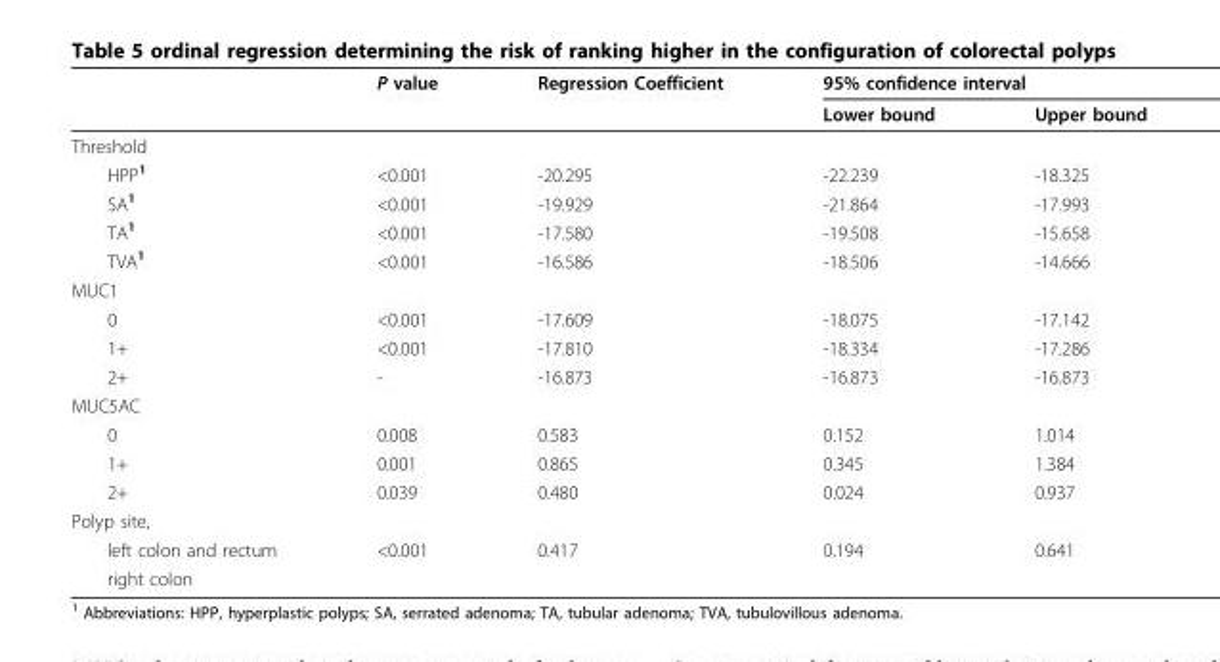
<table><thead><tr><td rowspan="2"></td><td rowspan="2">P value</td><td rowspan="2">Regression Coefficient</td><td colspan="2">95% confidence interval</td></tr><tr><td>Lower bound</td><td>Upper bound</td></tr></thead><tbody><tr><td colspan="5">Threshold</td></tr><tr><td>HPP<sup>1</sup></td><td>&lt;0.001</td><td>-20.295</td><td>-22.239</td><td>-18.325</td></tr><tr><td>SA<sup>1</sup></td><td>&lt;0.001</td><td>-19.929</td><td>-21.864</td><td>-17.993</td></tr><tr><td>TA<sup>1</sup></td><td>&lt;0.001</td><td>-17.580</td><td>-19.508</td><td>-15.658</td></tr><tr><td>TVA<sup>1</sup></td><td>&lt;0.001</td><td>-16.586</td><td>-18.506</td><td>-14.666</td></tr><tr><td colspan="5">MUC1</td></tr><tr><td>0</td><td>&lt;0.001</td><td>-17.609</td><td>-18.075</td><td>-17.142</td></tr><tr><td>1+</td><td>&lt;0.001</td><td>-17.810</td><td>-18.334</td><td>-17.286</td></tr><tr><td>2+</td><td>-</td><td>-16.873</td><td>-16.873</td><td>-16.873</td></tr><tr><td colspan="5">MUC5AC</td></tr><tr><td>0</td><td>0.008</td><td>0.583</td><td>0.152</td><td>1.014</td></tr><tr><td>1+</td><td>0.001</td><td>0.865</td><td>0.345</td><td>1.384</td></tr><tr><td>2+</td><td>0.039</td><td>0.480</td><td>0.024</td><td>0.937</td></tr><tr><td colspan="5">Polyp site,</td></tr><tr><td>left colon and rectum</td><td>&lt;0.001</td><td>0.417</td><td>0.194</td><td>0.641</td></tr><tr><td>right colon</td><td></td><td></td><td></td><td></td></tr></tbody></table>